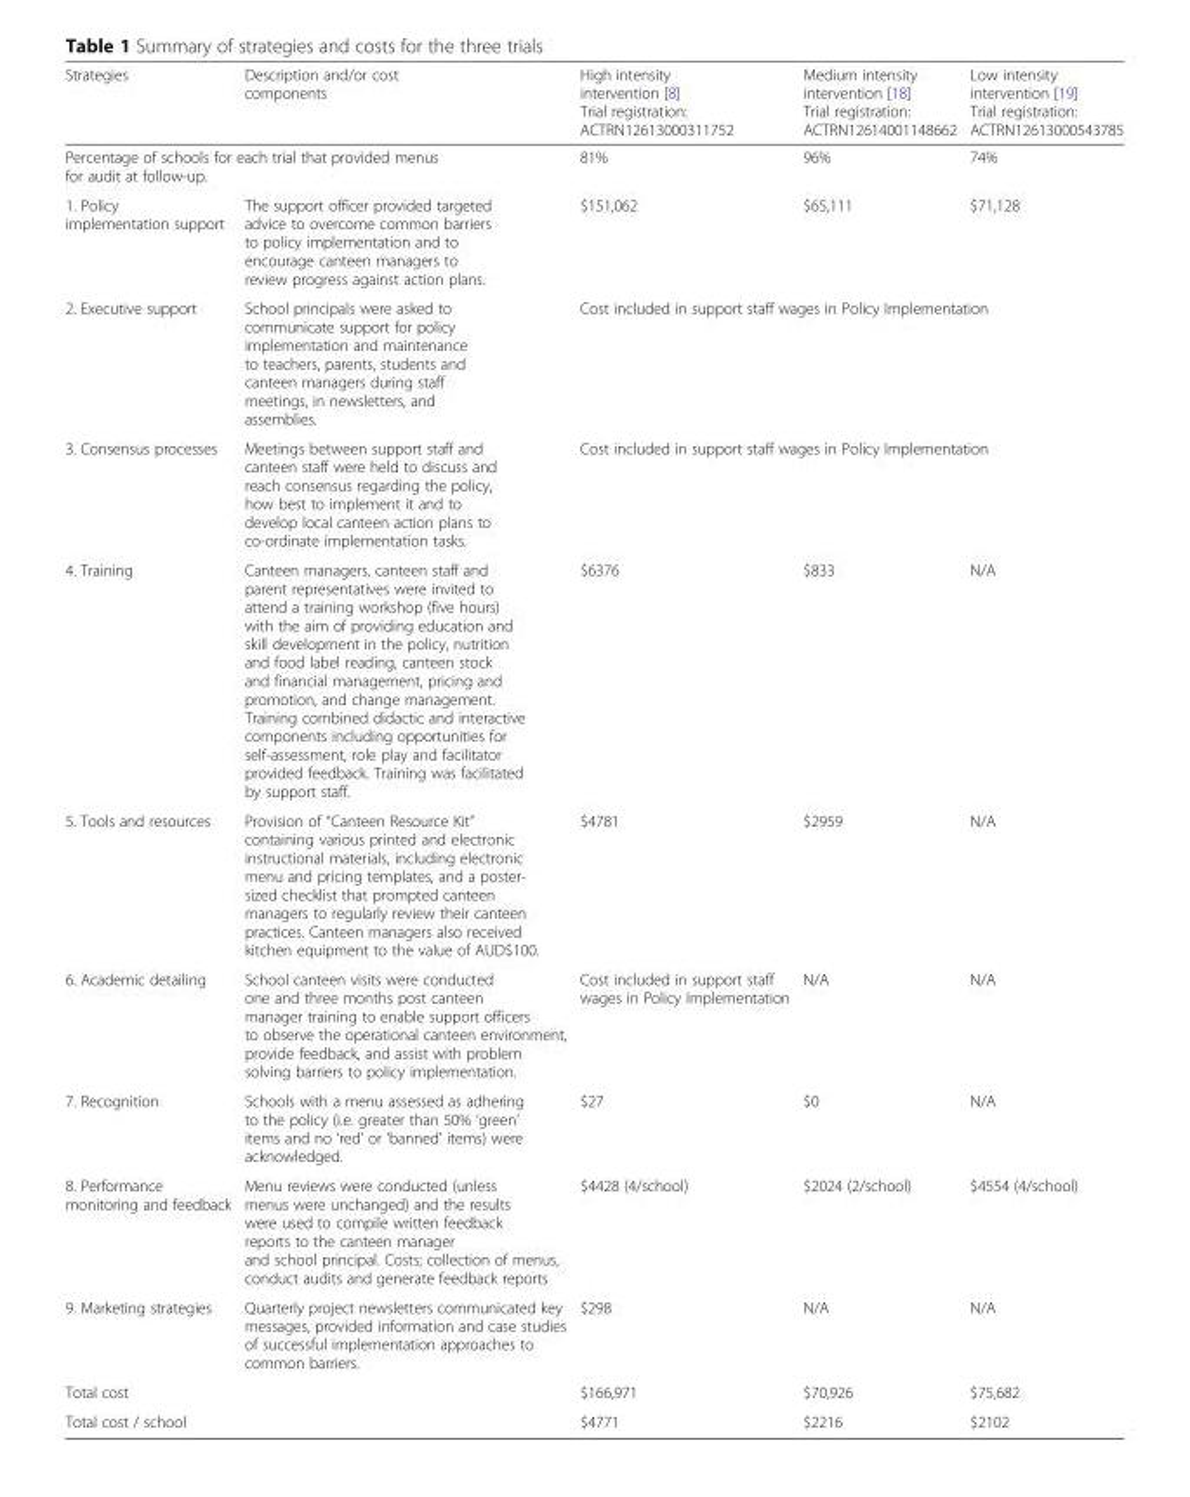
<table><thead><tr><td>Strategies</td><td>Description and/or cost components</td><td>High intensity intervention [8] Trial registration: ACTRN12613000311752</td><td>Medium intensity intervention [18] Trial registration: ACTRN12614001148662</td><td>Low intensity intervention [19] Trial registration: ACTRN12613000543785</td></tr></thead><tbody><tr><td colspan="2">Percentage of schools for each trial that provided menus for audit at follow-up.</td><td>81%</td><td>96%</td><td>74%</td></tr><tr><td>1. Policy implementation support</td><td>The support officer provided targeted advice to overcome common barriers to policy implementation and to encourage canteen managers to review progress against action plans.</td><td>$151,062</td><td>$65,111</td><td>$71,128</td></tr><tr><td>2. Executive support</td><td>School principals were asked to communicate support for policy implementation and maintenance to teachers, parents, students and canteen managers during staff meetings, in newsletters, and assemblies.</td><td colspan="3">Cost included in support staff wages in Policy Implementation</td></tr><tr><td>3. Consensus processes</td><td>Meetings between support staff and canteen staff were held to discuss and reach consensus regarding the policy, how best to implement it and to develop local canteen action plans to co-ordinate implementation tasks.</td><td colspan="3">Cost included in support staff wages in Policy Implementation</td></tr><tr><td>4. Training</td><td>Canteen managers, canteen staff and parent representatives were invited to attend a training workshop (five hours) with the aim of providing education and skill development in the policy, nutrition and food label reading, canteen stock and financial management, pricing and promotion, and change management. Training combined didactic and interactive components including opportunities for self-assessment, role play and facilitator provided feedback. Training was facilitated by support staff.</td><td>$6376</td><td>$833</td><td>N/A</td></tr><tr><td>5. Tools and resources</td><td>Provision of “Canteen Resource Kit” containing various printed and electronic instructional materials, including electronic menu and pricing templates, and a poster- sized checklist that prompted canteen managers to regularly review their canteen practices. Canteen managers also received kitchen equipment to the value of AUD$100.</td><td>$4781</td><td>$2959</td><td>N/A</td></tr><tr><td>6. Academic detailing</td><td>School canteen visits were conducted one and three months post canteen manager training to enable support officers to observe the operational canteen environment, provide feedback, and assist with problem solving barriers to policy implementation.</td><td>Cost included in support staff wages in Policy Implementation</td><td>N/A</td><td>N/A</td></tr><tr><td>7. Recognition</td><td>Schools with a menu assessed as adhering to the policy (i.e. greater than 50% ‘green’ items and no ‘red’ or ‘banned’ items) were acknowledged.</td><td>$27</td><td>$0</td><td>N/A</td></tr><tr><td>8. Performance monitoring and feedback</td><td>Menu reviews were conducted (unless menus were unchanged) and the results were used to compile written feedback reports to the canteen manager and school principal. Costs; collection of menus, conduct audits and generate feedback reports</td><td>$4428 (4/school)</td><td>$2024 (2/school)</td><td>$4554 (4/school)</td></tr><tr><td>9. Marketing strategies</td><td>Quarterly project newsletters communicated key messages, provided information and case studies of successful implementation approaches to common barriers.</td><td>$298</td><td>N/A</td><td>N/A</td></tr><tr><td>Total cost</td><td></td><td>$166,971</td><td>$70,926</td><td>$75,682</td></tr><tr><td>Total cost / school</td><td></td><td>$4771</td><td>$2216</td><td>$2102</td></tr></tbody></table>